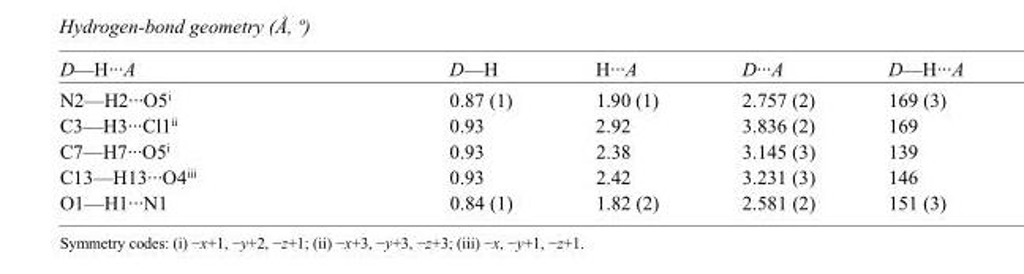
<table><tbody><tr><td>D—H···A</td><td>D—H</td><td>H···A</td><td>D···A</td><td>D—H···A</td></tr><tr><td>N2—H2···O5<sup>i</sup></td><td>0.87 (1)</td><td>1.90 (1)</td><td>2.757 (2)</td><td>169 (3)</td></tr><tr><td>C3—H3···Cl1<sup>ii</sup></td><td>0.93</td><td>2.92</td><td>3.836 (2)</td><td>169</td></tr><tr><td>C7—H7···O5<sup>i</sup></td><td>0.93</td><td>2.38</td><td>3.145 (3)</td><td>139</td></tr><tr><td>C13—H13···O4<sup>iii</sup></td><td>0.93</td><td>2.42</td><td>3.231 (3)</td><td>146</td></tr><tr><td>O1—H1···N1</td><td>0.84 (1)</td><td>1.82 (2)</td><td>2.581 (2)</td><td>151 (3)</td></tr></tbody></table>